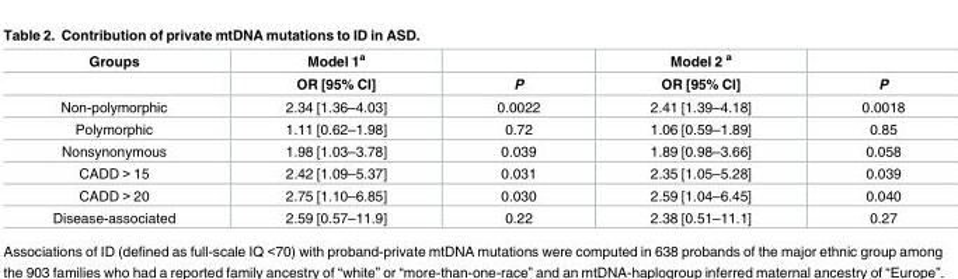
<table><thead><tr><td rowspan="2">Groups</td><td rowspan="2">Model 1<sup>a</sup> OR [95% CI]</td><td rowspan="2">P</td><td rowspan="2">Model 2 <sup>a</sup> OR [95% CI]</td><td rowspan="2">P</td></tr><tr></tr></thead><tbody><tr><td>Non-polymorphic</td><td>2.34 [1.36–4.03]</td><td>0.0022</td><td>2.41 [1.39–4.18]</td><td>0.0018</td></tr><tr><td>Polymorphic</td><td>1.11 [0.62–1.98]</td><td>0.72</td><td>1.06 [0.59–1.89]</td><td>0.85</td></tr><tr><td>Nonsynonymous</td><td>1.98 [1.03–3.78]</td><td>0.039</td><td>1.89 [0.98–3.66]</td><td>0.058</td></tr><tr><td>CADD &gt; 15</td><td>2.42 [1.09–5.37]</td><td>0.031</td><td>2.35 [1.05–5.28]</td><td>0.039</td></tr><tr><td>CADD &gt; 20</td><td>2.75 [1.10–6.85]</td><td>0.030</td><td>2.59 [1.04–6.45]</td><td>0.040</td></tr><tr><td>Disease-associated</td><td>2.59 [0.57–11.9]</td><td>0.22</td><td>2.38 [0.51–11.1]</td><td>0.27</td></tr></tbody></table>